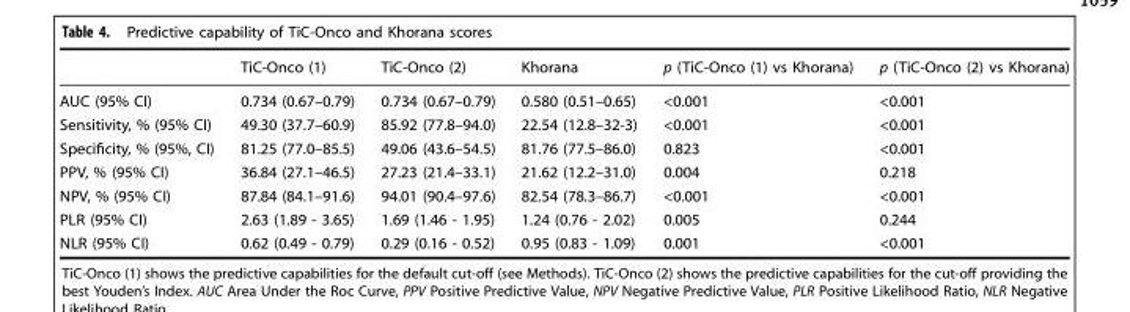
<table><thead><tr><td></td><td>TiC-Onco (1)</td><td>TiC-Onco (2)</td><td>Khorana</td><td>p (TiC-Onco (1) vs Khorana)</td><td>p (TiC-Onco (2) vs Khorana)</td></tr></thead><tbody><tr><td>AUC (95% CI)</td><td>0.734 (0.67–0.79)</td><td>0.734 (0.67–0.79)</td><td>0.580 (0.51–0.65)</td><td>&lt;0.001</td><td>&lt;0.001</td></tr><tr><td>Sensitivity, % (95% CI)</td><td>49.30 (37.7–60.9)</td><td>85.92 (77.8–94.0)</td><td>22.54 (12.8–32-3)</td><td>&lt;0.001</td><td>&lt;0.001</td></tr><tr><td>Specificity, % (95%, CI)</td><td>81.25 (77.0–85.5)</td><td>49.06 (43.6–54.5)</td><td>81.76 (77.5–86.0)</td><td>0.823</td><td>&lt;0.001</td></tr><tr><td>PPV, % (95% CI)</td><td>36.84 (27.1–46.5)</td><td>27.23 (21.4–33.1)</td><td>21.62 (12.2–31.0)</td><td>0.004</td><td>0.218</td></tr><tr><td>NPV, % (95% CI)</td><td>87.84 (84.1–91.6)</td><td>94.01 (90.4–97.6)</td><td>82.54 (78.3–86.7)</td><td>&lt;0.001</td><td>&lt;0.001</td></tr><tr><td>PLR (95% CI)</td><td>2.63 (1.89 - 3.65)</td><td>1.69 (1.46 - 1.95)</td><td>1.24 (0.76 - 2.02)</td><td>0.005</td><td>0.244</td></tr><tr><td>NLR (95% CI)</td><td>0.62 (0.49 - 0.79)</td><td>0.29 (0.16 - 0.52)</td><td>0.95 (0.83 - 1.09)</td><td>0.001</td><td>&lt;0.001</td></tr></tbody></table>